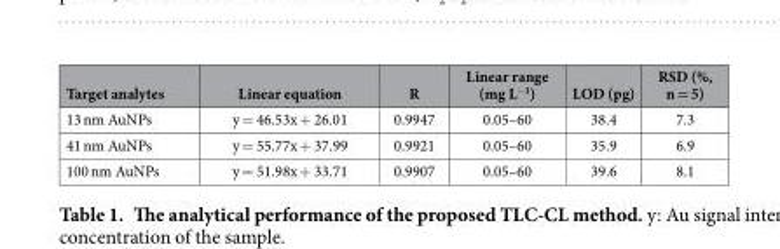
<table><thead><tr><td>Target analytes</td><td>Linear equation</td><td>R</td><td>Linear range (mg L<sup>−1</sup>)</td><td>LOD (pg)</td><td>RSD (%, n = 5)</td></tr></thead><tbody><tr><td>13 nm AuNPs</td><td>y = 46.53x + 26.01</td><td>0.9947</td><td>0.05–60</td><td>38.4</td><td>7.3</td></tr><tr><td>41 nm AuNPs</td><td>y = 55.77x + 37.99</td><td>0.9921</td><td>0.05–60</td><td>35.9</td><td>6.9</td></tr><tr><td>100 nm AuNPs</td><td>y = 51.98x + 33.71</td><td>0.9907</td><td>0.05–60</td><td>39.6</td><td>8.1</td></tr></tbody></table>